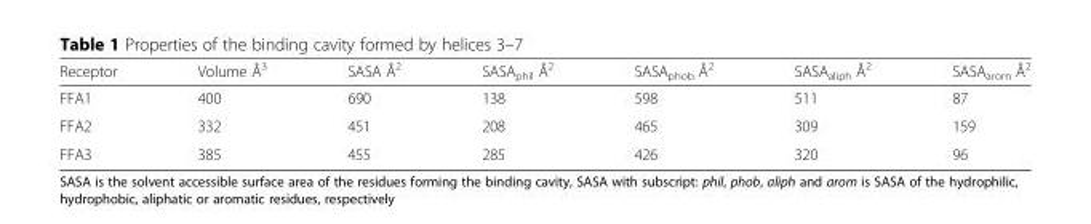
<table><thead><tr><td>Receptor</td><td>Volume Å<sup>3</sup></td><td>SASA Å<sup>2</sup></td><td>SASA<sub>phil</sub> Å<sup>2</sup></td><td>SASA<sub>phob</sub> Å<sup>2</sup></td><td>SASA<sub>aliph</sub> Å<sup>2</sup></td><td>SASA<sub>arom</sub> Å<sup>2</sup></td></tr></thead><tbody><tr><td>FFA1</td><td>400</td><td>690</td><td>138</td><td>598</td><td>511</td><td>87</td></tr><tr><td>FFA2</td><td>332</td><td>451</td><td>208</td><td>465</td><td>309</td><td>159</td></tr><tr><td>FFA3</td><td>385</td><td>455</td><td>285</td><td>426</td><td>320</td><td>96</td></tr></tbody></table>